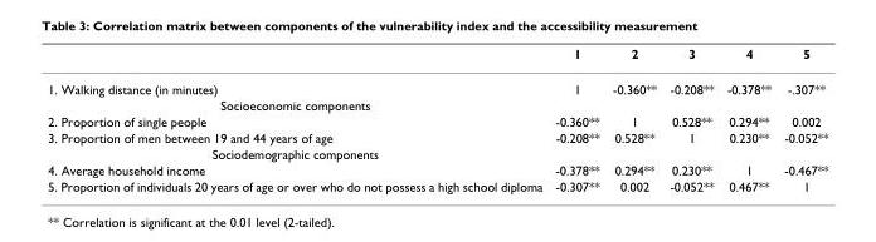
<table><thead><tr><td></td><td>1</td><td>2</td><td>3</td><td>4</td><td>5</td></tr></thead><tbody><tr><td>1. Walking distance (in minutes)</td><td>1</td><td>-0.360**</td><td>-0.208**</td><td>-0.378**</td><td>-.307**</td></tr><tr><td colspan="6">Socioeconomic components</td></tr><tr><td>2. Proportion of single people</td><td>-0.360**</td><td>1</td><td>0.528**</td><td>0.294**</td><td>0.002</td></tr><tr><td>3. Proportion of men between 19 and 44 years of age</td><td>-0.208**</td><td>0.528**</td><td>1</td><td>0.230**</td><td>-0.052**</td></tr><tr><td colspan="6">Sociodemographic components</td></tr><tr><td>4. Average household income</td><td>-0.378**</td><td>0.294**</td><td>0.230**</td><td>1</td><td>-0.467**</td></tr><tr><td>5. Proportion of individuals 20 years of age or over who do not possess a high school diploma</td><td>-0.307**</td><td>0.002</td><td>-0.052**</td><td>0.467**</td><td>1</td></tr></tbody></table>